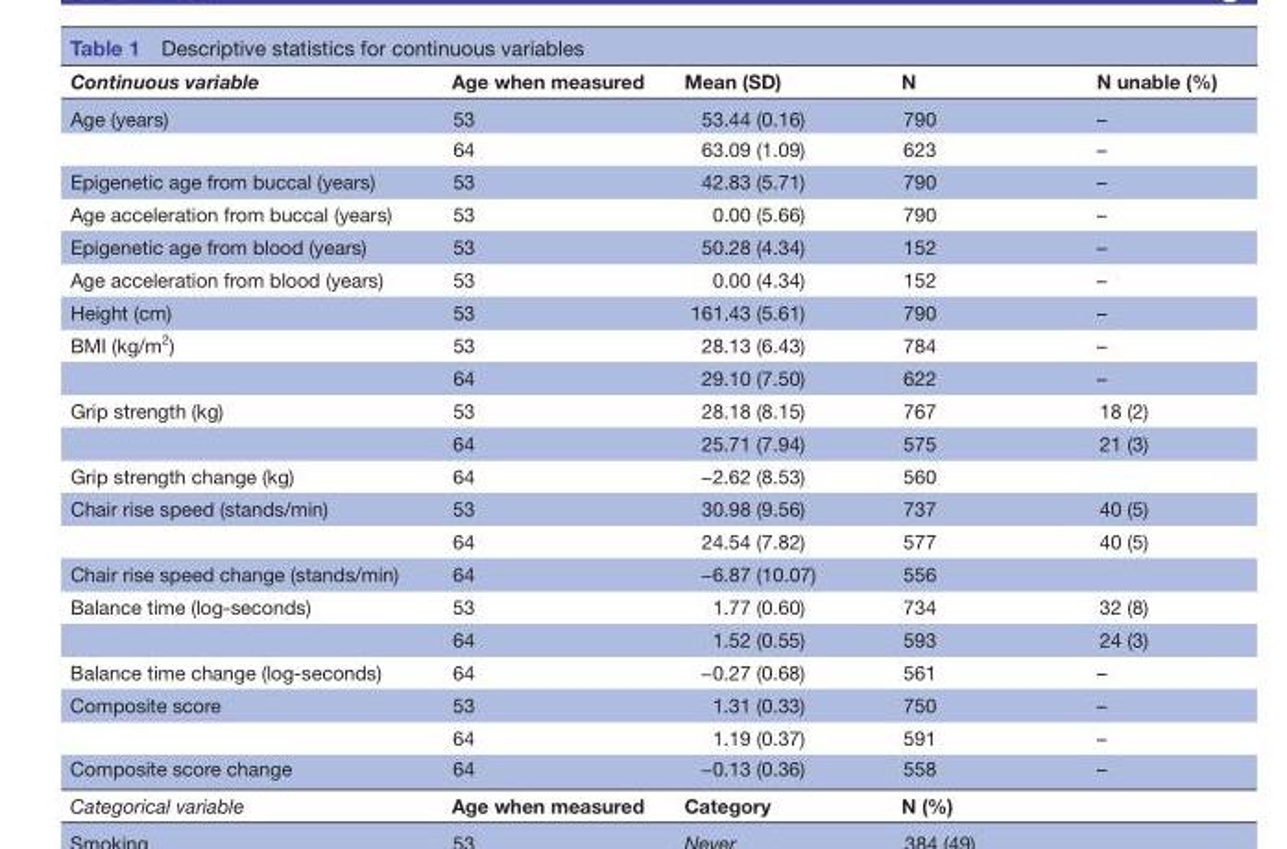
<table><thead><tr><td>Continuous variable</td><td>Age when measured</td><td>Mean (SD)</td><td>N</td><td>N unable (%)</td></tr></thead><tbody><tr><td rowspan="2">Age (years)</td><td>53</td><td>53.44 (0.16)</td><td>790</td><td>–</td></tr><tr><td>64</td><td>63.09 (1.09)</td><td>623</td><td>–</td></tr><tr><td>Epigenetic age from buccal (years)</td><td>53</td><td>42.83 (5.71)</td><td>790</td><td>–</td></tr><tr><td>Age acceleration from buccal (years)</td><td>53</td><td>0.00 (5.66)</td><td>790</td><td>–</td></tr><tr><td>Epigenetic age from blood (years)</td><td>53</td><td>50.28 (4.34)</td><td>152</td><td>–</td></tr><tr><td>Age acceleration from blood (years)</td><td>53</td><td>0.00 (4.34)</td><td>152</td><td>–</td></tr><tr><td>Height (cm)</td><td>53</td><td>161.43 (5.61)</td><td>790</td><td>–</td></tr><tr><td rowspan="2">BMI (kg/m<sup>2</sup>)</td><td>53</td><td>28.13 (6.43)</td><td>784</td><td>–</td></tr><tr><td>64</td><td>29.10 (7.50)</td><td>622</td><td>–</td></tr><tr><td rowspan="2">Grip strength (kg)</td><td>53</td><td>28.18 (8.15)</td><td>767</td><td>18 (2)</td></tr><tr><td>64</td><td>25.71 (7.94)</td><td>575</td><td>21 (3)</td></tr><tr><td>Grip strength change (kg)</td><td>64</td><td>−2.62 (8.53)</td><td>560</td><td></td></tr><tr><td rowspan="2">Chair rise speed (stands/min)</td><td>53</td><td>30.98 (9.56)</td><td>737</td><td>40 (5)</td></tr><tr><td>64</td><td>24.54 (7.82)</td><td>577</td><td>40 (5)</td></tr><tr><td>Chair rise speed change (stands/min)</td><td>64</td><td>−6.87 (10.07)</td><td>556</td><td></td></tr><tr><td rowspan="2">Balance time (log-seconds)</td><td>53</td><td>1.77 (0.60)</td><td>734</td><td>32 (8)</td></tr><tr><td>64</td><td>1.52 (0.55)</td><td>593</td><td>24 (3)</td></tr><tr><td>Balance time change (log-seconds)</td><td>64</td><td>−0.27 (0.68)</td><td>561</td><td>–</td></tr><tr><td rowspan="2">Composite score</td><td>53</td><td>1.31 (0.33)</td><td>750</td><td>–</td></tr><tr><td>64</td><td>1.19 (0.37)</td><td>591</td><td>–</td></tr><tr><td>Composite score change</td><td>64</td><td>−0.13 (0.36)</td><td>558</td><td>–</td></tr></tbody></table>